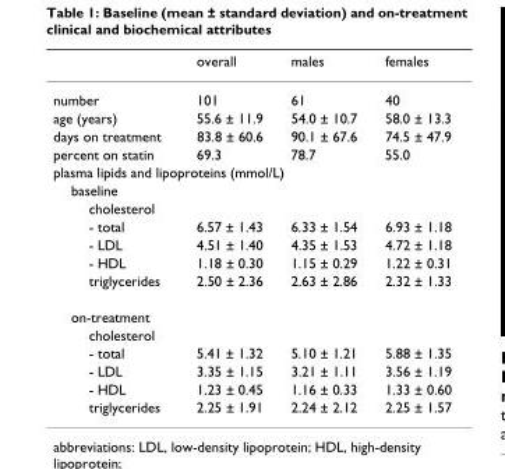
<table><thead><tr><td></td><td>overall</td><td>males</td><td>females</td></tr></thead><tbody><tr><td>number</td><td>101</td><td>61</td><td>40</td></tr><tr><td>age (years)</td><td>55.6 ± 11.9</td><td>54.0 ± 10.7</td><td>58.0 ± 13.3</td></tr><tr><td>days on treatment</td><td>83.8 ± 60.6</td><td>90.1 ± 67.6</td><td>74.5 ± 47.9</td></tr><tr><td>percent on statin</td><td>69.3</td><td>78.7</td><td>55.0</td></tr><tr><td colspan="4">plasma lipids and lipoproteins (mmol/L)</td></tr><tr><td colspan="4">baseline</td></tr><tr><td colspan="4">cholesterol</td></tr><tr><td>- total</td><td>6.57 ± 1.43</td><td>6.33 ± 1.54</td><td>6.93 ± 1.18</td></tr><tr><td>- LDL</td><td>4.51 ± 1.40</td><td>4.35 ± 1.53</td><td>4.72 ± 1.18</td></tr><tr><td>- HDL</td><td>1.18 ± 0.30</td><td>1.15 ± 0.29</td><td>1.22 ± 0.31</td></tr><tr><td>triglycerides</td><td>2.50 ± 2.36</td><td>2.63 ± 2.86</td><td>2.32 ± 1.33</td></tr><tr><td colspan="4">on-treatment</td></tr><tr><td colspan="4">cholesterol</td></tr><tr><td>- total</td><td>5.41 ± 1.32</td><td>5.10 ± 1.21</td><td>5.88 ± 1.35</td></tr><tr><td>- LDL</td><td>3.35 ± 1.15</td><td>3.21 ± 1.11</td><td>3.56 ± 1.19</td></tr><tr><td>- HDL</td><td>1.23 ± 0.45</td><td>1.16 ± 0.33</td><td>1.33 ± 0.60</td></tr><tr><td>triglycerides</td><td>2.25 ± 1.91</td><td>2.24 ± 2.12</td><td>2.25 ± 1.57</td></tr></tbody></table>